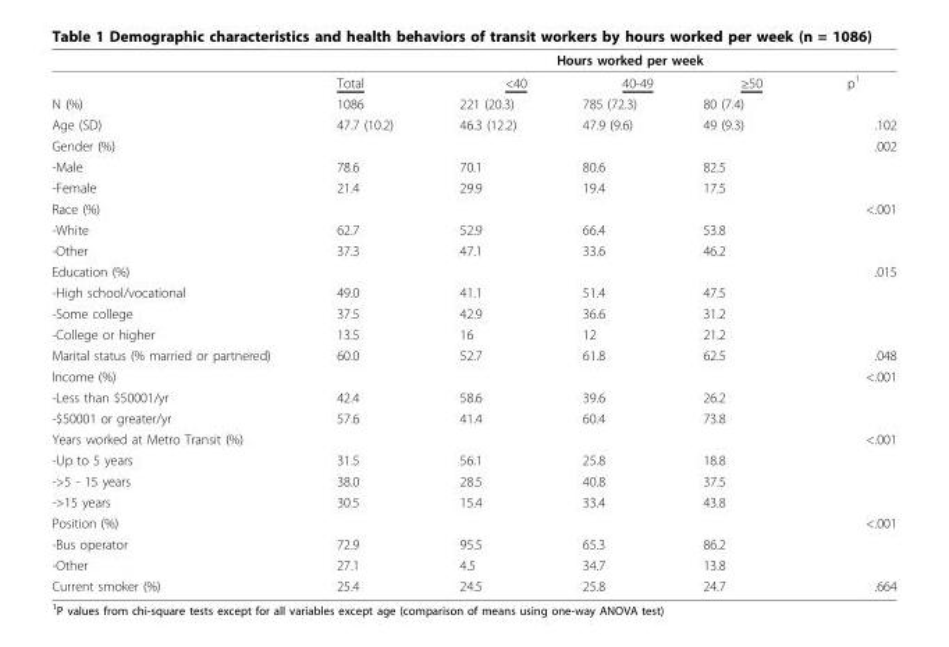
<table><thead><tr><td rowspan="2"></td><td rowspan="2">Total</td><td colspan="3">Hours worked per week</td><td rowspan="2">p<sup>1</sup></td></tr><tr><td>&lt;40</td><td>40-49</td><td>≥50</td></tr></thead><tbody><tr><td>N (%)</td><td>1086</td><td>221 (20.3)</td><td>785 (72.3)</td><td>80 (7.4)</td><td></td></tr><tr><td>Age (SD)</td><td>47.7 (10.2)</td><td>46.3 (12.2)</td><td>47.9 (9.6)</td><td>49 (9.3)</td><td>.102</td></tr><tr><td>Gender (%)</td><td></td><td></td><td></td><td></td><td>.002</td></tr><tr><td>-Male</td><td>78.6</td><td>70.1</td><td>80.6</td><td>82.5</td><td></td></tr><tr><td>-Female</td><td>21.4</td><td>29.9</td><td>19.4</td><td>17.5</td><td></td></tr><tr><td>Race (%)</td><td></td><td></td><td></td><td></td><td>&lt;.001</td></tr><tr><td>-White</td><td>62.7</td><td>52.9</td><td>66.4</td><td>53.8</td><td></td></tr><tr><td>-Other</td><td>37.3</td><td>47.1</td><td>33.6</td><td>46.2</td><td></td></tr><tr><td>Education (%)</td><td></td><td></td><td></td><td></td><td>.015</td></tr><tr><td>-High school/vocational</td><td>49.0</td><td>41.1</td><td>51.4</td><td>47.5</td><td></td></tr><tr><td>-Some college</td><td>37.5</td><td>42.9</td><td>36.6</td><td>31.2</td><td></td></tr><tr><td>-College or higher</td><td>13.5</td><td>16</td><td>12</td><td>21.2</td><td></td></tr><tr><td>Marital status (% married or partnered)</td><td>60.0</td><td>52.7</td><td>61.8</td><td>62.5</td><td>.048</td></tr><tr><td>Income (%)</td><td></td><td></td><td></td><td></td><td>&lt;.001</td></tr><tr><td>-Less than $50001/yr</td><td>42.4</td><td>58.6</td><td>39.6</td><td>26.2</td><td></td></tr><tr><td>-$50001 or greater/yr</td><td>57.6</td><td>41.4</td><td>60.4</td><td>73.8</td><td></td></tr><tr><td>Years worked at Metro Transit (%)</td><td></td><td></td><td></td><td></td><td>&lt;.001</td></tr><tr><td>-Up to 5 years</td><td>31.5</td><td>56.1</td><td>25.8</td><td>18.8</td><td></td></tr><tr><td>-&gt;5 - 15 years</td><td>38.0</td><td>28.5</td><td>40.8</td><td>37.5</td><td></td></tr><tr><td>-&gt;15 years</td><td>30.5</td><td>15.4</td><td>33.4</td><td>43.8</td><td></td></tr><tr><td>Position (%)</td><td></td><td></td><td></td><td></td><td>&lt;.001</td></tr><tr><td>-Bus operator</td><td>72.9</td><td>95.5</td><td>65.3</td><td>86.2</td><td></td></tr><tr><td>-Other</td><td>27.1</td><td>4.5</td><td>34.7</td><td>13.8</td><td></td></tr><tr><td>Current smoker (%)</td><td>25.4</td><td>24.5</td><td>25.8</td><td>24.7</td><td>.664</td></tr></tbody></table>